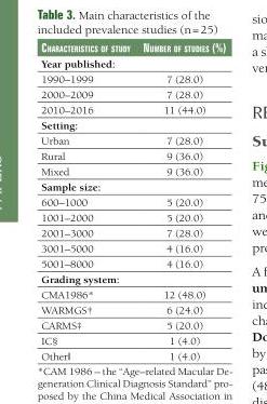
<table><thead><tr><td>chaRacteRistics of study</td><td>numbeR of studies (%)</td></tr></thead><tbody><tr><td colspan="2">Year published:</td></tr><tr><td>1990–1999</td><td>7 (28.0)</td></tr><tr><td>2000–2009</td><td>7 (28.0)</td></tr><tr><td>2010–2016</td><td>11 (44.0)</td></tr><tr><td colspan="2">Setting:</td></tr><tr><td>Urban</td><td>7 (28.0)</td></tr><tr><td>Rural</td><td>9 (36.0)</td></tr><tr><td>Mixed</td><td>9 (36.0)</td></tr><tr><td colspan="2">Sample size:</td></tr><tr><td>600–1000</td><td>5 (20.0)</td></tr><tr><td>1001–2000</td><td>5 (20.0)</td></tr><tr><td>2001–3000</td><td>7 (28.0)</td></tr><tr><td>3001–5000</td><td>4 (16.0)</td></tr><tr><td>5001–8000</td><td>4 (16.0)</td></tr><tr><td colspan="2">Grading system:</td></tr><tr><td>CMA1986*</td><td>12 (48.0)</td></tr><tr><td>WARMGS†</td><td>6 (24.0)</td></tr><tr><td>CARMS‡</td><td>5 (20.0)</td></tr><tr><td>IC§</td><td>1 (4.0)</td></tr><tr><td>Other‖</td><td>1 (4.0)</td></tr></tbody></table>